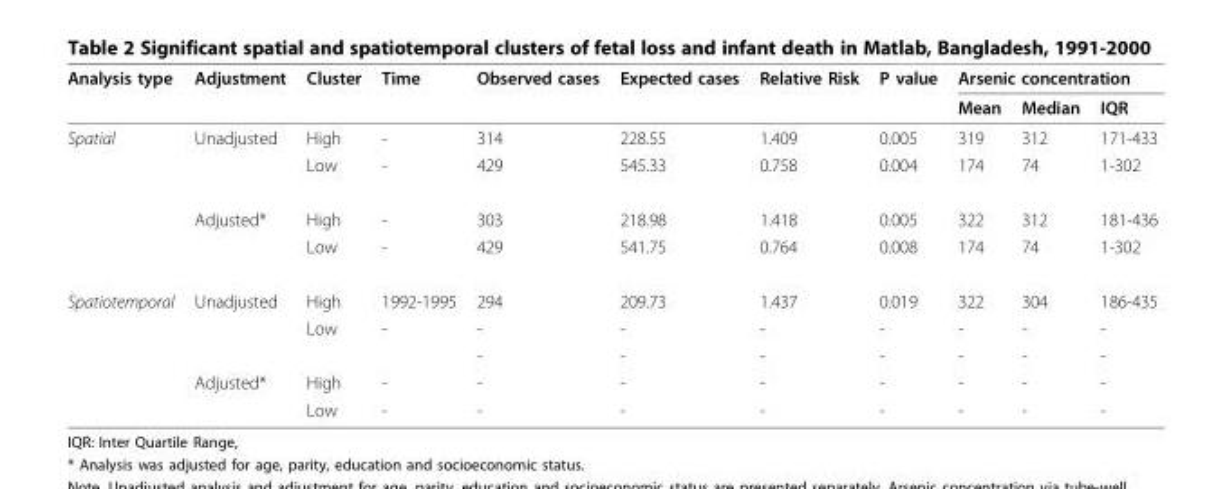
<table><thead><tr><td rowspan="2">Analysis type</td><td rowspan="2">Adjustment</td><td rowspan="2">Cluster</td><td rowspan="2">Time</td><td rowspan="2">Observed cases</td><td rowspan="2">Expected cases</td><td rowspan="2">Relative Risk</td><td rowspan="2">P value</td><td colspan="3">Arsenic concentration</td></tr><tr><td>Mean</td><td>Median</td><td>IQR</td></tr></thead><tbody><tr><td rowspan="4">Spatial</td><td>Unadjusted</td><td>High</td><td>-</td><td>314</td><td>228.55</td><td>1.409</td><td>0.005</td><td>319</td><td>312</td><td>171-433</td></tr><tr><td></td><td>Low</td><td>-</td><td>429</td><td>545.33</td><td>0.758</td><td>0.004</td><td>174</td><td>74</td><td>1-302</td></tr><tr><td>Adjusted*</td><td>High</td><td>-</td><td>303</td><td>218.98</td><td>1.418</td><td>0.005</td><td>322</td><td>312</td><td>181-436</td></tr><tr><td></td><td>Low</td><td>-</td><td>429</td><td>541.75</td><td>0.764</td><td>0.008</td><td>174</td><td>74</td><td>1-302</td></tr><tr><td rowspan="5">Spatiotemporal</td><td>Unadjusted</td><td>High</td><td>1992-1995</td><td>294</td><td>209.73</td><td>1.437</td><td>0.019</td><td>322</td><td>304</td><td>186-435</td></tr><tr><td></td><td>Low</td><td>-</td><td>-</td><td>-</td><td>-</td><td>-</td><td>-</td><td>-</td><td>-</td></tr><tr><td></td><td></td><td></td><td>-</td><td>-</td><td>-</td><td>-</td><td>-</td><td>-</td><td>-</td></tr><tr><td>Adjusted*</td><td>High</td><td>-</td><td>-</td><td>-</td><td>-</td><td>-</td><td>-</td><td>-</td><td>-</td></tr><tr><td></td><td>Low</td><td>-</td><td>-</td><td>-</td><td>-</td><td>-</td><td>-</td><td>-</td><td>-</td></tr></tbody></table>